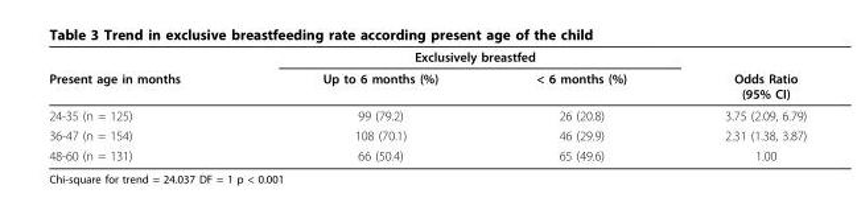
<table><thead><tr><td rowspan="2">Present age in months</td><td colspan="2">Exclusively breastfed</td><td rowspan="2">Odds Ratio (95% CI)</td></tr><tr><td>Up to 6 months (%)</td><td>&lt; 6 months (%)</td></tr></thead><tbody><tr><td>24-35 (n = 125)</td><td>99 (79.2)</td><td>26 (20.8)</td><td>3.75 (2.09, 6.79)</td></tr><tr><td>36-47 (n = 154)</td><td>108 (70.1)</td><td>46 (29.9)</td><td>2.31 (1.38, 3.87)</td></tr><tr><td>48-60 (n = 131)</td><td>66 (50.4)</td><td>65 (49.6)</td><td>1.00</td></tr></tbody></table>